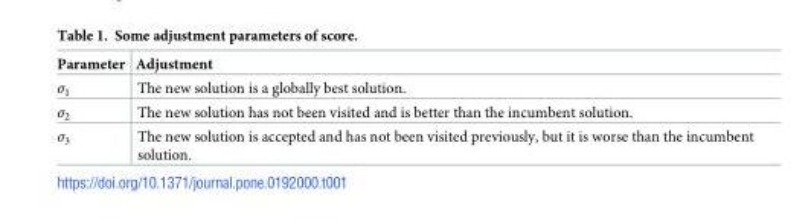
<table><thead><tr><td>Parameter</td><td>Adjustment</td></tr></thead><tbody><tr><td>σ<sub>1</sub></td><td>The new solution is a globally best solution.</td></tr><tr><td>σ<sub>2</sub></td><td>The new solution has not been visited and is better than the incumbent solution.</td></tr><tr><td>σ<sub>3</sub></td><td>The new solution is accepted and has not been visited previously, but it is worse than the incumbent solution.</td></tr></tbody></table>